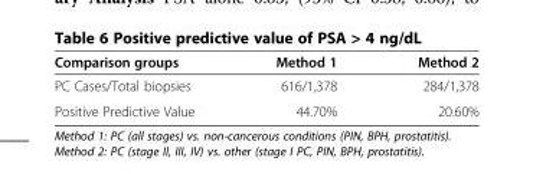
<table><thead><tr><td>Comparison groups</td><td>Method 1</td><td>Method 2</td></tr></thead><tbody><tr><td>PC Cases/Total biopsies</td><td>616/1,378</td><td>284/1,378</td></tr><tr><td>Positive Predictive Value</td><td>44.70%</td><td>20.60%</td></tr></tbody></table>